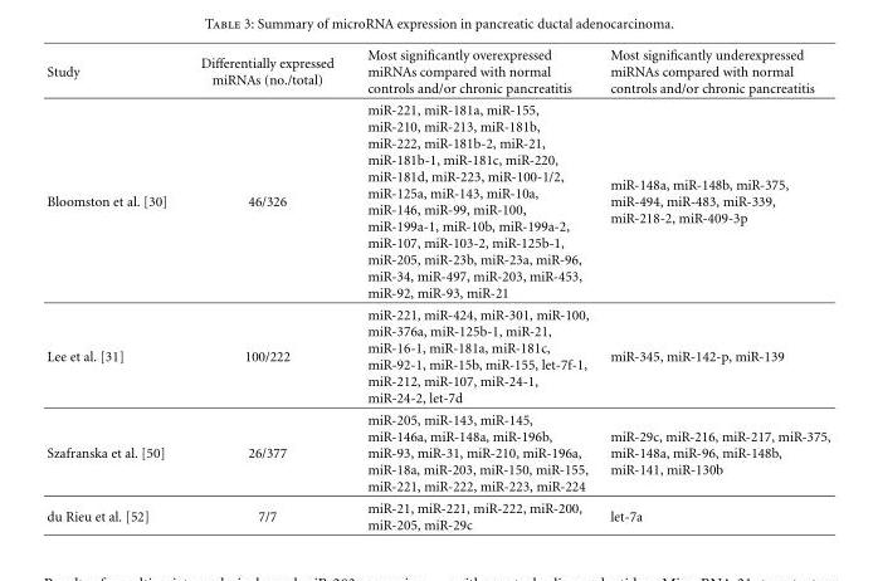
<table><thead><tr><td>Study</td><td>Differentially expressed miRNAs (no./total)</td><td>Most significantly overexpressed miRNAs compared with normal controls and/or chronic pancreatitis</td><td>Most significantly underexpressed miRNAs compared with normal controls and/or chronic pancreatitis</td></tr></thead><tbody><tr><td>Bloomston et al. [30]</td><td>46/326</td><td>miR-221, miR-181a, miR-155, miR-210, miR-213, miR-181b, miR-222, miR-181b-2, miR-21, miR-181b-1, miR-181c, miR-220, miR-181d, miR-223, miR-100-1/2, miR-125a, miR-143, miR-10a, miR-146, miR-99, miR-100, miR-199a-1, miR-10b, miR-199a-2, miR-107, miR-103-2, miR-125b-1, miR-205, miR-23b, miR-23a, miR-96, miR-34, miR-497, miR-203, miR-453, miR-92, miR-93, miR-21</td><td>miR-148a, miR-148b, miR-375, miR-494, miR-483, miR-339, miR-218-2, miR-409-3p</td></tr><tr><td>Lee et al. [31]</td><td>100/222</td><td>miR-221, miR-424, miR-301, miR-100, miR-376a, miR-125b-1, miR-21, miR-16-1, miR-181a, miR-181c, miR-92-1, miR-15b, miR-155, let-7f-1, miR-212, miR-107, miR-24-1, miR-24-2, let-7d</td><td>miR-345, miR-142-p, miR-139</td></tr><tr><td>Szafranska et al. [50]</td><td>26/377</td><td>miR-205, miR-143, miR-145, miR-146a, miR-148a, miR-196b, miR-93, miR-31, miR-210, miR-196a, miR-18a, miR-203, miR-150, miR-155, miR-221, miR-222, miR-223, miR-224</td><td>miR-29c, miR-216, miR-217, miR-375, miR-148a, miR-96, miR-148b, miR-141, miR-130b</td></tr><tr><td>du Rieu et al. [52]</td><td>7/7</td><td>miR-21, miR-221, miR-222, miR-200, miR-205, miR-29c</td><td>let-7a</td></tr></tbody></table>